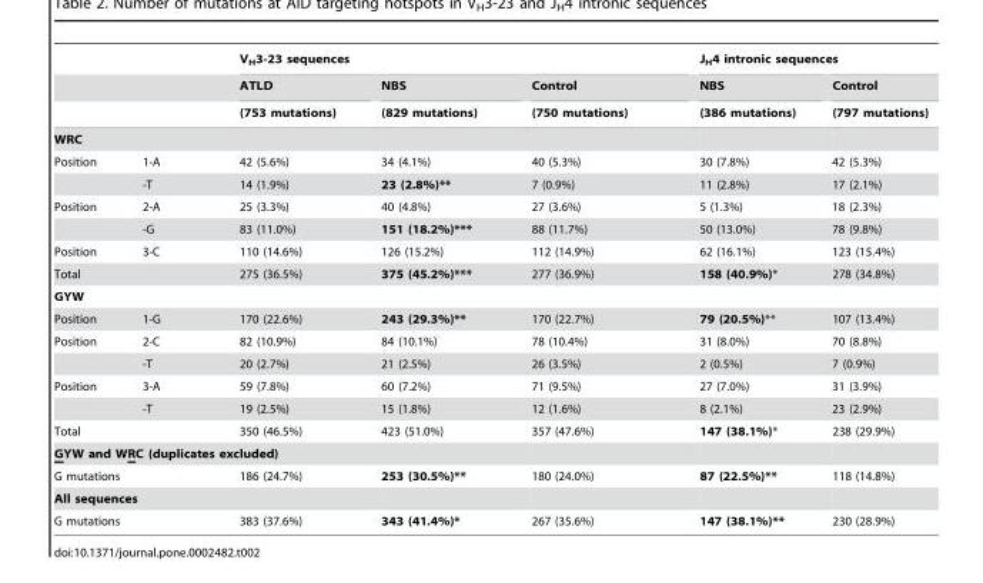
<table><thead><tr><td rowspan="3"></td><td rowspan="3"></td><td colspan="3">V<sub>H</sub>3-23 sequences</td><td colspan="2">J<sub>H</sub>4 intronic sequences</td></tr><tr><td rowspan="2">ATLD (753 mutations)</td><td rowspan="2">NBS (829 mutations)</td><td rowspan="2">Control (750 mutations)</td><td rowspan="2">NBS (386 mutations)</td><td rowspan="2">Control (797 mutations)</td></tr><tr></tr></thead><tbody><tr><td colspan="7">WRC</td></tr><tr><td rowspan="2">Position</td><td>1-A</td><td>42 (5.6%)</td><td>34 (4.1%)</td><td>40 (5.3%)</td><td>30 (7.8%)</td><td>42 (5.3%)</td></tr><tr><td>-T</td><td>14 (1.9%)</td><td>23 (2.8%)**</td><td>7 (0.9%)</td><td>11 (2.8%)</td><td>17 (2.1%)</td></tr><tr><td rowspan="2">Position</td><td>2-A</td><td>25 (3.3%)</td><td>40 (4.8%)</td><td>27 (3.6%)</td><td>5 (1.3%)</td><td>18 (2.3%)</td></tr><tr><td>-G</td><td>83 (11.0%)</td><td>151 (18.2%)***</td><td>88 (11.7%)</td><td>50 (13.0%)</td><td>78 (9.8%)</td></tr><tr><td>Position</td><td>3-C</td><td>110 (14.6%)</td><td>126 (15.2%)</td><td>112 (14.9%)</td><td>62 (16.1%)</td><td>123 (15.4%)</td></tr><tr><td>Total</td><td></td><td>275 (36.5%)</td><td>375 (45.2%)***</td><td>277 (36.9%)</td><td>158 (40.9%)*</td><td>278 (34.8%)</td></tr><tr><td colspan="7">GYW</td></tr><tr><td>Position</td><td>1-G</td><td>170 (22.6%)</td><td>243 (29.3%)**</td><td>170 (22.7%)</td><td>79 (20.5%)**</td><td>107 (13.4%)</td></tr><tr><td rowspan="2">Position</td><td>2-C</td><td>82 (10.9%)</td><td>84 (10.1%)</td><td>78 (10.4%)</td><td>31 (8.0%)</td><td>70 (8.8%)</td></tr><tr><td>-T</td><td>20 (2.7%)</td><td>21 (2.5%)</td><td>26 (3.5%)</td><td>2 (0.5%)</td><td>7 (0.9%)</td></tr><tr><td rowspan="2">Position</td><td>3-A</td><td>59 (7.8%)</td><td>60 (7.2%)</td><td>71 (9.5%)</td><td>27 (7.0%)</td><td>31 (3.9%)</td></tr><tr><td>-T</td><td>19 (2.5%)</td><td>15 (1.8%)</td><td>12 (1.6%)</td><td>8 (2.1%)</td><td>23 (2.9%)</td></tr><tr><td>Total</td><td></td><td>350 (46.5%)</td><td>423 (51.0%)</td><td>357 (47.6%)</td><td>147 (38.1%)*</td><td>238 (29.9%)</td></tr><tr><td colspan="7">GYW and WRC (duplicates excluded)</td></tr><tr><td colspan="2">G mutations</td><td>186 (24.7%)</td><td>253 (30.5%)**</td><td>180 (24.0%)</td><td>87 (22.5%)**</td><td>118 (14.8%)</td></tr><tr><td colspan="7">All sequences</td></tr><tr><td colspan="2">G mutations</td><td>383 (37.6%)</td><td>343 (41.4%)*</td><td>267 (35.6%)</td><td>147 (38.1%)**</td><td>230 (28.9%)</td></tr></tbody></table>